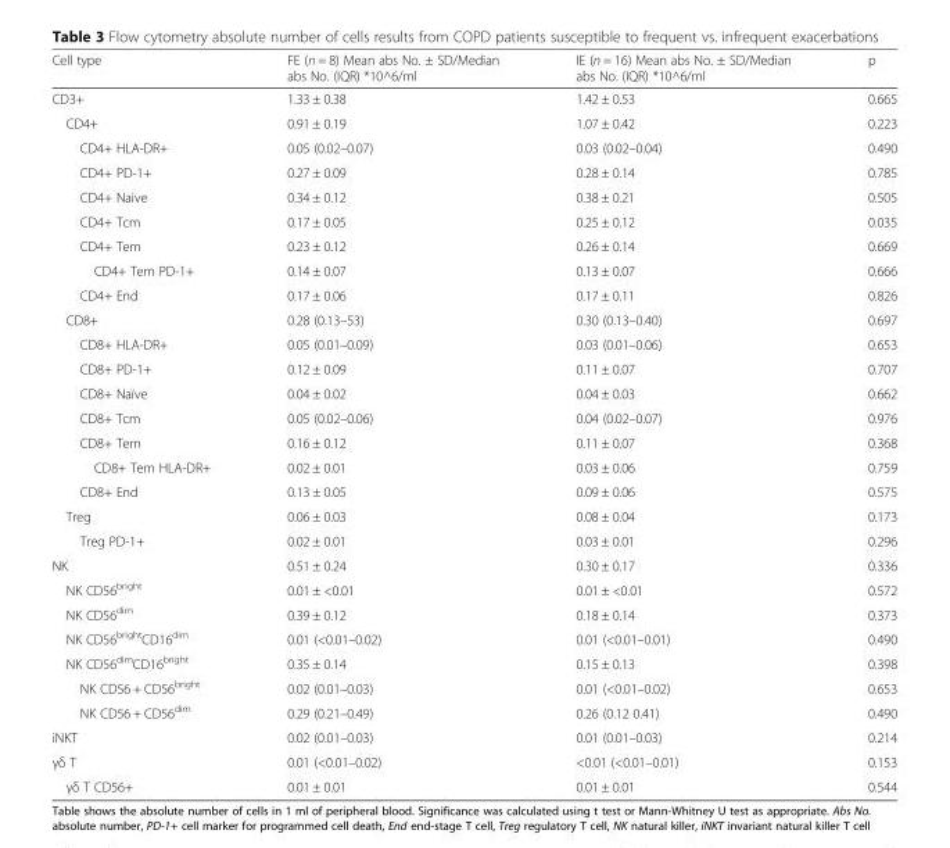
<table><thead><tr><td>Cell type</td><td>FE (n = 8) Mean abs No. ± SD/Median abs No. (IQR) *10^6/ml</td><td>IE (n = 16) Mean abs No. ± SD/Median abs No. (IQR) *10^6/ml</td><td>p</td></tr></thead><tbody><tr><td>CD3+</td><td>1.33 ± 0.38</td><td>1.42 ± 0.53</td><td>0.665</td></tr><tr><td>CD4+</td><td>0.91 ± 0.19</td><td>1.07 ± 0.42</td><td>0.223</td></tr><tr><td>CD4+ HLA-DR+</td><td>0.05 (0.02–0.07)</td><td>0.03 (0.02–0.04)</td><td>0.490</td></tr><tr><td>CD4+ PD-1+</td><td>0.27 ± 0.09</td><td>0.28 ± 0.14</td><td>0.785</td></tr><tr><td>CD4+ Naive</td><td>0.34 ± 0.12</td><td>0.38 ± 0.21</td><td>0.505</td></tr><tr><td>CD4+ Tcm</td><td>0.17 ± 0.05</td><td>0.25 ± 0.12</td><td>0.035</td></tr><tr><td>CD4+ Tem</td><td>0.23 ± 0.12</td><td>0.26 ± 0.14</td><td>0.669</td></tr><tr><td>CD4+ Tem PD-1+</td><td>0.14 ± 0.07</td><td>0.13 ± 0.07</td><td>0.666</td></tr><tr><td>CD4+ End</td><td>0.17 ± 0.06</td><td>0.17 ± 0.11</td><td>0.826</td></tr><tr><td>CD8+</td><td>0.28 (0.13–53)</td><td>0.30 (0.13–0.40)</td><td>0.697</td></tr><tr><td>CD8+ HLA-DR+</td><td>0.05 (0.01–0.09)</td><td>0.03 (0.01–0.06)</td><td>0.653</td></tr><tr><td>CD8+ PD-1+</td><td>0.12 ± 0.09</td><td>0.11 ± 0.07</td><td>0.707</td></tr><tr><td>CD8+ Naïve</td><td>0.04 ± 0.02</td><td>0.04 ± 0.03</td><td>0.662</td></tr><tr><td>CD8+ Tcm</td><td>0.05 (0.02–0.06)</td><td>0.04 (0.02–0.07)</td><td>0.976</td></tr><tr><td>CD8+ Tem</td><td>0.16 ± 0.12</td><td>0.11 ± 0.07</td><td>0.368</td></tr><tr><td>CD8+ Tem HLA-DR+</td><td>0.02 ± 0.01</td><td>0.03 ± 0.06</td><td>0.759</td></tr><tr><td>CD8+ End</td><td>0.13 ± 0.05</td><td>0.09 ± 0.06</td><td>0.575</td></tr><tr><td>Treg</td><td>0.06 ± 0.03</td><td>0.08 ± 0.04</td><td>0.173</td></tr><tr><td>Treg PD-1+</td><td>0.02 ± 0.01</td><td>0.03 ± 0.01</td><td>0.296</td></tr><tr><td>NK</td><td>0.51 ± 0.24</td><td>0.30 ± 0.17</td><td>0.336</td></tr><tr><td>NK CD56<sup>bright</sup></td><td>0.01 ± &lt;0.01</td><td>0.01 ± &lt;0.01</td><td>0.572</td></tr><tr><td>NK CD56<sup>dim</sup></td><td>0.39 ± 0.12</td><td>0.18 ± 0.14</td><td>0.373</td></tr><tr><td>NK CD56<sup>bright</sup>CD16<sup>dim</sup></td><td>0.01 (&lt;0.01–0.02)</td><td>0.01 (&lt;0.01–0.01)</td><td>0.490</td></tr><tr><td>NK CD56<sup>dim</sup>CD16<sup>bright</sup></td><td>0.35 ± 0.14</td><td>0.15 ± 0.13</td><td>0.398</td></tr><tr><td>NK CD56 + CD56<sup>bright</sup></td><td>0.02 (0.01–0.03)</td><td>0.01 (&lt;0.01–0.02)</td><td>0.653</td></tr><tr><td>NK CD56 + CD56<sup>dim</sup></td><td>0.29 (0.21–0.49)</td><td>0.26 (0.12 0.41)</td><td>0.490</td></tr><tr><td>iNKT</td><td>0.02 (0.01–0.03)</td><td>0.01 (0.01–0.03)</td><td>0.214</td></tr><tr><td>γδ T</td><td>0.01 (&lt;0.01–0.02)</td><td>&lt;0.01 (&lt;0.01–0.01)</td><td>0.153</td></tr><tr><td>γδ T CD56+</td><td>0.01 ± 0.01</td><td>0.01 ± 0.01</td><td>0.544</td></tr></tbody></table>